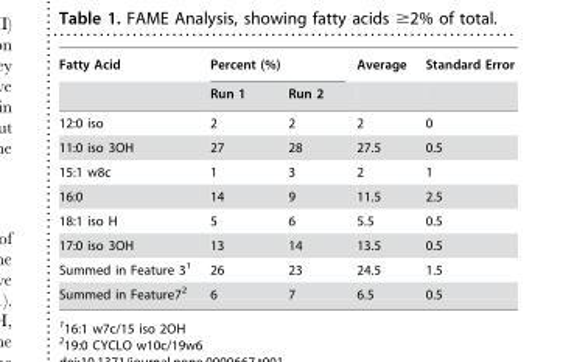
<table><thead><tr><td rowspan="2">Fatty Acid</td><td colspan="2">Percent (%)</td><td rowspan="2">Average</td><td rowspan="2">Standard Error</td></tr><tr><td>Run 1</td><td>Run 2</td></tr></thead><tbody><tr><td>12:0 iso</td><td>2</td><td>2</td><td>2</td><td>0</td></tr><tr><td>11:0 iso 3OH</td><td>27</td><td>28</td><td>27.5</td><td>0.5</td></tr><tr><td>15:1 w8c</td><td>1</td><td>3</td><td>2</td><td>1</td></tr><tr><td>16:0</td><td>14</td><td>9</td><td>11.5</td><td>2.5</td></tr><tr><td>18:1 iso H</td><td>5</td><td>6</td><td>5.5</td><td>0.5</td></tr><tr><td>17:0 iso 3OH</td><td>13</td><td>14</td><td>13.5</td><td>0.5</td></tr><tr><td>Summed in Feature 3<sup>1</sup></td><td>26</td><td>23</td><td>24.5</td><td>1.5</td></tr><tr><td>Summed in Feature7<sup>2</sup></td><td>6</td><td>7</td><td>6.5</td><td>0.5</td></tr></tbody></table>